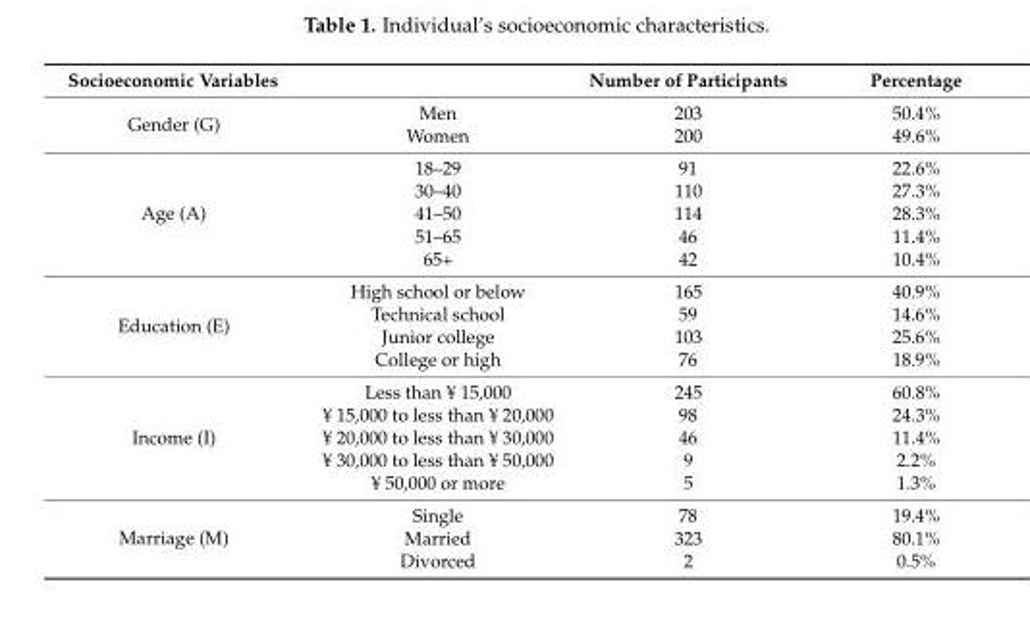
<table><thead><tr><td>Socioeconomic Variables</td><td></td><td>Number of Participants</td><td>Percentage</td></tr></thead><tbody><tr><td rowspan="2">Gender (G)</td><td>Men</td><td>203</td><td>50.4%</td></tr><tr><td>Women</td><td>200</td><td>49.6%</td></tr><tr><td rowspan="5">Age (A)</td><td>18–29</td><td>91</td><td>22.6%</td></tr><tr><td>30–40</td><td>110</td><td>27.3%</td></tr><tr><td>41–50</td><td>114</td><td>28.3%</td></tr><tr><td>51–65</td><td>46</td><td>11.4%</td></tr><tr><td>65+</td><td>42</td><td>10.4%</td></tr><tr><td rowspan="4">Education (E)</td><td>High school or below</td><td>165</td><td>40.9%</td></tr><tr><td>Technical school</td><td>59</td><td>14.6%</td></tr><tr><td>Junior college</td><td>103</td><td>25.6%</td></tr><tr><td>College or high</td><td>76</td><td>18.9%</td></tr><tr><td rowspan="5">Income (I)</td><td>Less than ¥ 15,000</td><td>245</td><td>60.8%</td></tr><tr><td>¥ 15,000 to less than ¥ 20,000</td><td>98</td><td>24.3%</td></tr><tr><td>¥ 20,000 to less than ¥ 30,000</td><td>46</td><td>11.4%</td></tr><tr><td>¥ 30,000 to less than ¥ 50,000</td><td>9</td><td>2.2%</td></tr><tr><td>¥ 50,000 or more</td><td>5</td><td>1.3%</td></tr><tr><td rowspan="3">Marriage (M)</td><td>Single</td><td>78</td><td>19.4%</td></tr><tr><td>Married</td><td>323</td><td>80.1%</td></tr><tr><td>Divorced</td><td>2</td><td>0.5%</td></tr></tbody></table>